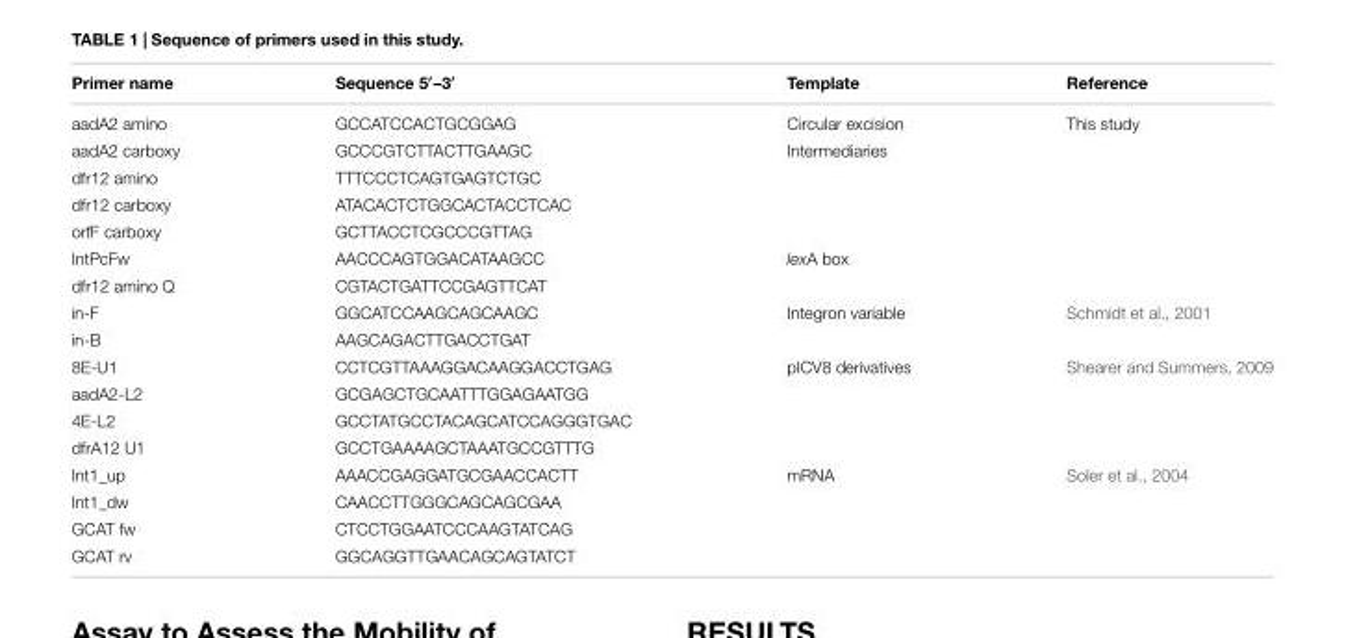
<table><thead><tr><td>Primer name</td><td>Sequence 5′–3′</td><td>Template</td><td>Reference</td></tr></thead><tbody><tr><td>aadA2 amino</td><td>GCCATCCACTGCGGAG</td><td>Circular excision</td><td>This study</td></tr><tr><td>aadA2 carboxy</td><td>GCCCGTCTTACTTGAAGC</td><td>Intermediaries</td><td></td></tr><tr><td>dfr12 amino</td><td>TTTCCCTCAGTGAGTCTGC</td><td></td><td></td></tr><tr><td>dfr12 carboxy</td><td>ATACACTCTGGCACTACCTCAC</td><td></td><td></td></tr><tr><td>orfF carboxy</td><td>GCTTACCTCGCCCGTTAG</td><td></td><td></td></tr><tr><td>IntPcFw</td><td>AACCCAGTGGACATAAGCC</td><td>lexA box</td><td></td></tr><tr><td>dfr12 amino Q</td><td>CGTACTGATTCCGAGTTCAT</td><td></td><td></td></tr><tr><td>in-F</td><td>GGCATCCAAGCAGCAAGC</td><td>Integron variable</td><td>Schmidt et al., 2001</td></tr><tr><td>in-B</td><td>AAGCAGACTTGACCTGAT</td><td></td><td></td></tr><tr><td>8E-U1</td><td>CCTCGTTAAAGGACAAGGACCTGAG</td><td>pICV8 derivatives</td><td>Shearer and Summers, 2009</td></tr><tr><td>aadA2-L2</td><td>GCGAGCTGCAATTTGGAGAATGG</td><td></td><td></td></tr><tr><td>4E-L2</td><td>GCCTATGCCTACAGCATCCAGGGTGAC</td><td></td><td></td></tr><tr><td>dfrA12 U1</td><td>GCCTGAAAAGCTAAATGCCGTTTG</td><td></td><td></td></tr><tr><td>Int1_up</td><td>AAACCGAGGATGCGAACCACTT</td><td>mRNA</td><td>Soler et al., 2004</td></tr><tr><td>Int1_dw</td><td>CAACCTTGGGCAGCAGCGAA</td><td></td><td></td></tr><tr><td>GCAT fw</td><td>CTCCTGGAATCCCAAGTATCAG</td><td></td><td></td></tr><tr><td>GCAT rv</td><td>GGCAGGTTGAACAGCAGTATCT</td><td></td><td></td></tr></tbody></table>